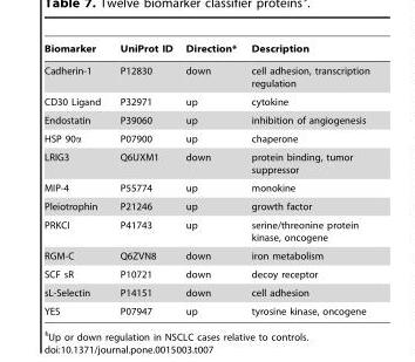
<table><thead><tr><td>Biomarker</td><td>UniProt ID</td><td>Direction*</td><td>Description</td></tr></thead><tbody><tr><td>Cadherin-1</td><td>P12830</td><td>down</td><td>cell adhesion, transcription regulation</td></tr><tr><td>CD30 Ligand</td><td>P32971</td><td>up</td><td>cytokine</td></tr><tr><td>Endostatin</td><td>P39060</td><td>up</td><td>inhibition of angiogenesis</td></tr><tr><td>HSP 90α</td><td>P07900</td><td>up</td><td>chaperone</td></tr><tr><td>LRIG3</td><td>Q6UXM1</td><td>down</td><td>protein binding, tumor suppressor</td></tr><tr><td>MIP-4</td><td>P55774</td><td>up</td><td>monokine</td></tr><tr><td>Pleiotrophin</td><td>P21246</td><td>up</td><td>growth factor</td></tr><tr><td>PRKCI</td><td>P41743</td><td>up</td><td>serine/threonine protein kinase, oncogene</td></tr><tr><td>RGM-C</td><td>Q6ZVN8</td><td>down</td><td>iron metabolism</td></tr><tr><td>SCF sR</td><td>P10721</td><td>down</td><td>decoy receptor</td></tr><tr><td>sL-Selectin</td><td>P14151</td><td>down</td><td>cell adhesion</td></tr><tr><td>YES</td><td>P07947</td><td>up</td><td>tyrosine kinase, oncogene</td></tr></tbody></table>